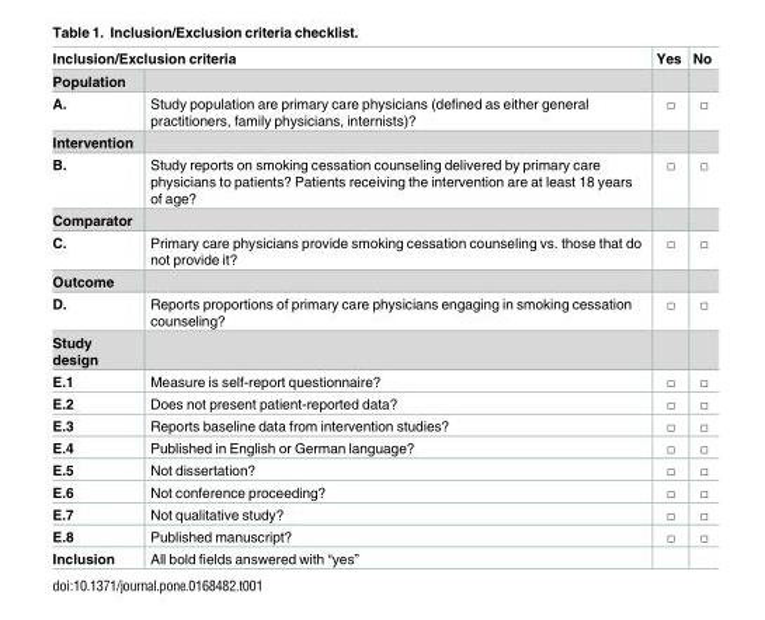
<table><thead><tr><td colspan="2">Inclusion/Exclusion criteria</td><td rowspan="2">Yes</td><td rowspan="2">No</td></tr><tr><td>Population</td><td></td></tr></thead><tbody><tr><td>A.</td><td>Study population are primary care physicians (defined as either general practitioners, family physicians, internists)?</td><td>□</td><td>□</td></tr><tr><td colspan="4">Intervention</td></tr><tr><td>B.</td><td>Study reports on smoking cessation counseling delivered by primary care physicians to patients? Patients receiving the intervention are at least 18 years of age?</td><td>□</td><td>□</td></tr><tr><td colspan="4">Comparator</td></tr><tr><td>C.</td><td>Primary care physicians provide smoking cessation counseling vs. those that do not provide it?</td><td>□</td><td>□</td></tr><tr><td colspan="4">Outcome</td></tr><tr><td>D.</td><td>Reports proportions of primary care physicians engaging in smoking cessation counseling?</td><td>□</td><td>□</td></tr><tr><td colspan="4">Study design</td></tr><tr><td>E.1</td><td>Measure is self-report questionnaire?</td><td>□</td><td>□</td></tr><tr><td>E.2</td><td>Does not present patient-reported data?</td><td>□</td><td>□</td></tr><tr><td>E.3</td><td>Reports baseline data from intervention studies?</td><td>□</td><td>□</td></tr><tr><td>E.4</td><td>Published in English or German language?</td><td>□</td><td>□</td></tr><tr><td>E.5</td><td>Not dissertation?</td><td>□</td><td>□</td></tr><tr><td>E.6</td><td>Not conference proceeding?</td><td>□</td><td>□</td></tr><tr><td>E.7</td><td>Not qualitative study?</td><td>□</td><td>□</td></tr><tr><td>E.8</td><td>Published manuscript?</td><td>□</td><td>□</td></tr><tr><td>Inclusion</td><td>All bold fields answered with “yes”</td><td></td><td></td></tr></tbody></table>